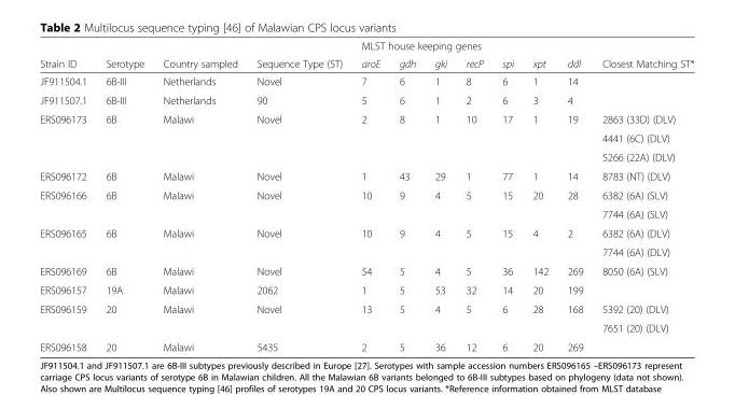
<table><thead><tr><td rowspan="2">Strain ID</td><td rowspan="2">Serotype</td><td rowspan="2">Country sampled</td><td rowspan="2">Sequence Type (ST)</td><td colspan="7">MLST house keeping genes</td><td rowspan="2">Closest Matching ST*</td></tr><tr><td>aroE</td><td>gdh</td><td>gki</td><td>recP</td><td>spi</td><td>xpt</td><td>ddl</td></tr></thead><tbody><tr><td>JF911504.1</td><td>6B-III</td><td>Netherlands</td><td>Novel</td><td>7</td><td>6</td><td>1</td><td>8</td><td>6</td><td>1</td><td>14</td><td></td></tr><tr><td>JF911507.1</td><td>6B-III</td><td>Netherlands</td><td>90</td><td>5</td><td>6</td><td>1</td><td>2</td><td>6</td><td>3</td><td>4</td><td></td></tr><tr><td rowspan="3">ERS096173</td><td rowspan="3">6B</td><td rowspan="3">Malawi</td><td rowspan="3">Novel</td><td rowspan="3">2</td><td rowspan="3">8</td><td rowspan="3">1</td><td rowspan="3">10</td><td rowspan="3">17</td><td rowspan="3">1</td><td rowspan="3">19</td><td>2863 (33D) (DLV)</td></tr><tr><td>4441 (6C) (DLV)</td></tr><tr><td>5266 (22A) (DLV)</td></tr><tr><td>ERS096172</td><td>6B</td><td>Malawi</td><td>Novel</td><td>1</td><td>43</td><td>29</td><td>1</td><td>77</td><td>1</td><td>14</td><td>8783 (NT) (DLV)</td></tr><tr><td rowspan="2">ERS096166</td><td rowspan="2">6B</td><td rowspan="2">Malawi</td><td rowspan="2">Novel</td><td rowspan="2">10</td><td rowspan="2">9</td><td rowspan="2">4</td><td rowspan="2">5</td><td rowspan="2">15</td><td rowspan="2">20</td><td rowspan="2">28</td><td>6382 (6A) (SLV)</td></tr><tr><td>7744 (6A) (SLV)</td></tr><tr><td rowspan="2">ERS096165</td><td rowspan="2">6B</td><td rowspan="2">Malawi</td><td rowspan="2">Novel</td><td rowspan="2">10</td><td rowspan="2">9</td><td rowspan="2">4</td><td rowspan="2">5</td><td rowspan="2">15</td><td rowspan="2">4</td><td rowspan="2">2</td><td>6382 (6A) (DLV)</td></tr><tr><td>7744 (6A) (DLV)</td></tr><tr><td>ERS096169</td><td>6B</td><td>Malawi</td><td>Novel</td><td>54</td><td>5</td><td>4</td><td>5</td><td>36</td><td>142</td><td>269</td><td>8050 (6A) (SLV)</td></tr><tr><td>ERS096157</td><td>19A</td><td>Malawi</td><td>2062</td><td>1</td><td>5</td><td>53</td><td>32</td><td>14</td><td>20</td><td>199</td><td></td></tr><tr><td rowspan="2">ERS096159</td><td rowspan="2">20</td><td rowspan="2">Malawi</td><td rowspan="2">Novel</td><td rowspan="2">13</td><td rowspan="2">5</td><td rowspan="2">4</td><td rowspan="2">5</td><td rowspan="2">6</td><td rowspan="2">28</td><td rowspan="2">168</td><td>5392 (20) (DLV)</td></tr><tr><td>7651 (20) (DLV)</td></tr><tr><td>ERS096158</td><td>20</td><td>Malawi</td><td>5435</td><td>2</td><td>5</td><td>36</td><td>12</td><td>6</td><td>20</td><td>269</td><td></td></tr></tbody></table>